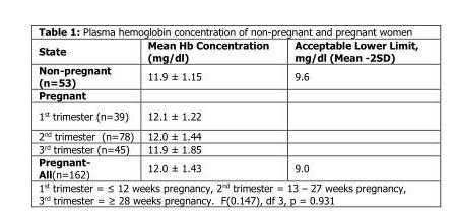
<table><thead><tr><td>State</td><td>Mean Hb Concentration (mg/dl)</td><td>Acceptable Lower Limit, mg/dl (Mean -2SD)</td></tr></thead><tbody><tr><td>Non-pregnant (n=53)</td><td>11.9 ± 1.15</td><td>9.6</td></tr><tr><td colspan="3">Pregnant</td></tr><tr><td>1<sup>st</sup> trimester (n=39)</td><td>12.1 ± 1.22</td><td></td></tr><tr><td>2<sup>nd</sup> trimester (n=78)</td><td>12.0 ± 1.44</td><td></td></tr><tr><td>3<sup>rd</sup> trimester (n=45)</td><td>11.9 ± 1.85</td><td></td></tr><tr><td>Pregnant- All(n=162)</td><td>12.0 ± 1.43</td><td>9.0</td></tr></tbody></table>